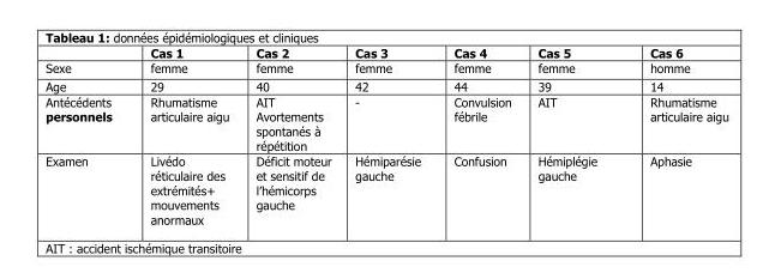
<table><thead><tr><td></td><td>Cas 1</td><td>Cas 2</td><td>Cas 3</td><td>Cas 4</td><td>Cas 5</td><td>Cas 6</td></tr></thead><tbody><tr><td>Sexe</td><td>femme</td><td>femme</td><td>femme</td><td>femme</td><td>femme</td><td>homme</td></tr><tr><td>Age</td><td>29</td><td>40</td><td>42</td><td>44</td><td>39</td><td>14</td></tr><tr><td>Antécédents personnels</td><td>Rhumatisme articulaire aigu</td><td>AIT Avortements spontanés à répétition</td><td>-</td><td>Convulsion fébrile</td><td>AIT</td><td>Rhumatisme articulaire aigu</td></tr><tr><td>Examen</td><td>Livédo réticulaire des extrémités+ mouvements anormaux</td><td>Déficit moteur et sensitif de l’hémicorps gauche</td><td>Hémiparésie gauche</td><td>Confusion</td><td>Hémiplégie gauche</td><td>Aphasie</td></tr></tbody></table>